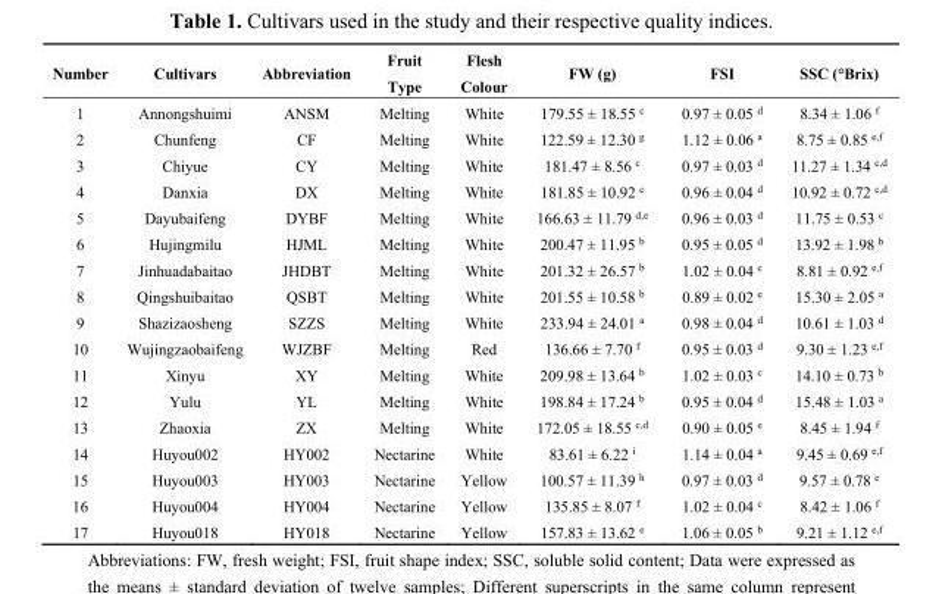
<table><thead><tr><td>Number</td><td>Cultivars</td><td>Abbreviation</td><td>Fruit Type</td><td>Flesh Colour</td><td>FW (g)</td><td>FSI</td><td>SSC (°Brix)</td></tr></thead><tbody><tr><td>1</td><td>Annongshuimi</td><td>ANSM</td><td>Melting</td><td>White</td><td>179.55 ± 18.55 <sup>c</sup></td><td>0.97 ± 0.05 <sup>d</sup></td><td>8.34 ± 1.06 <sup>f</sup></td></tr><tr><td>2</td><td>Chunfeng</td><td>CF</td><td>Melting</td><td>White</td><td>122.59 ± 12.30 <sup>g</sup></td><td>1.12 ± 0.06 <sup>a</sup></td><td>8.75 ± 0.85 <sup>e,f</sup></td></tr><tr><td>3</td><td>Chiyue</td><td>CY</td><td>Melting</td><td>White</td><td>181.47 ± 8.56 <sup>c</sup></td><td>0.97 ± 0.03 <sup>d</sup></td><td>11.27 ± 1.34 <sup>c,d</sup></td></tr><tr><td>4</td><td>Danxia</td><td>DX</td><td>Melting</td><td>White</td><td>181.85 ± 10.92 <sup>c</sup></td><td>0.96 ± 0.04 <sup>d</sup></td><td>10.92 ± 0.72 <sup>c,d</sup></td></tr><tr><td>5</td><td>Dayubaifeng</td><td>DYBF</td><td>Melting</td><td>White</td><td>166.63 ± 11.79 <sup>d,e</sup></td><td>0.96 ± 0.03 <sup>d</sup></td><td>11.75 ± 0.53 <sup>c</sup></td></tr><tr><td>6</td><td>Hujingmilu</td><td>HJML</td><td>Melting</td><td>White</td><td>200.47 ± 11.95 <sup>b</sup></td><td>0.95 ± 0.05 <sup>d</sup></td><td>13.92 ± 1.98 <sup>b</sup></td></tr><tr><td>7</td><td>Jinhuadabaitao</td><td>JHDBT</td><td>Melting</td><td>White</td><td>201.32 ± 26.57 <sup>b</sup></td><td>1.02 ± 0.04 <sup>c</sup></td><td>8.81 ± 0.92 <sup>e,f</sup></td></tr><tr><td>8</td><td>Qingshuibaitao</td><td>QSBT</td><td>Melting</td><td>White</td><td>201.55 ± 10.58 <sup>b</sup></td><td>0.89 ± 0.02 <sup>e</sup></td><td>15.30 ± 2.05 <sup>a</sup></td></tr><tr><td>9</td><td>Shazizaosheng</td><td>SZZS</td><td>Melting</td><td>White</td><td>233.94 ± 24.01 <sup>a</sup></td><td>0.98 ± 0.04 <sup>d</sup></td><td>10.61 ± 1.03 <sup>d</sup></td></tr><tr><td>10</td><td>Wujingzaobaifeng</td><td>WJZBF</td><td>Melting</td><td>Red</td><td>136.66 ± 7.70 <sup>f</sup></td><td>0.95 ± 0.03 <sup>d</sup></td><td>9.30 ± 1.23 <sup>e,f</sup></td></tr><tr><td>11</td><td>Xinyu</td><td>XY</td><td>Melting</td><td>White</td><td>209.98 ± 13.64 <sup>b</sup></td><td>1.02 ± 0.03 <sup>c</sup></td><td>14.10 ± 0.73 <sup>b</sup></td></tr><tr><td>12</td><td>Yulu</td><td>YL</td><td>Melting</td><td>White</td><td>198.84 ± 17.24 <sup>b</sup></td><td>0.95 ± 0.04 <sup>d</sup></td><td>15.48 ± 1.03 <sup>a</sup></td></tr><tr><td>13</td><td>Zhaoxia</td><td>ZX</td><td>Melting</td><td>White</td><td>172.05 ± 18.55 <sup>c,d</sup></td><td>0.90 ± 0.05 <sup>e</sup></td><td>8.45 ± 1.94 <sup>f</sup></td></tr><tr><td>14</td><td>Huyou002</td><td>HY002</td><td>Nectarine</td><td>White</td><td>83.61 ± 6.22 <sup>i</sup></td><td>1.14 ± 0.04 <sup>a</sup></td><td>9.45 ± 0.69 <sup>e,f</sup></td></tr><tr><td>15</td><td>Huyou003</td><td>HY003</td><td>Nectarine</td><td>Yellow</td><td>100.57 ± 11.39 <sup>h</sup></td><td>0.97 ± 0.03 <sup>d</sup></td><td>9.57 ± 0.78 <sup>e</sup></td></tr><tr><td>16</td><td>Huyou004</td><td>HY004</td><td>Nectarine</td><td>Yellow</td><td>135.85 ± 8.07 <sup>f</sup></td><td>1.02 ± 0.04 <sup>c</sup></td><td>8.42 ± 1.06 <sup>f</sup></td></tr><tr><td>17</td><td>Huyou018</td><td>HY018</td><td>Nectarine</td><td>Yellow</td><td>157.83 ± 13.62 <sup>e</sup></td><td>1.06 ± 0.05 <sup>b</sup></td><td>9.21 ± 1.12 <sup>e,f</sup></td></tr></tbody></table>